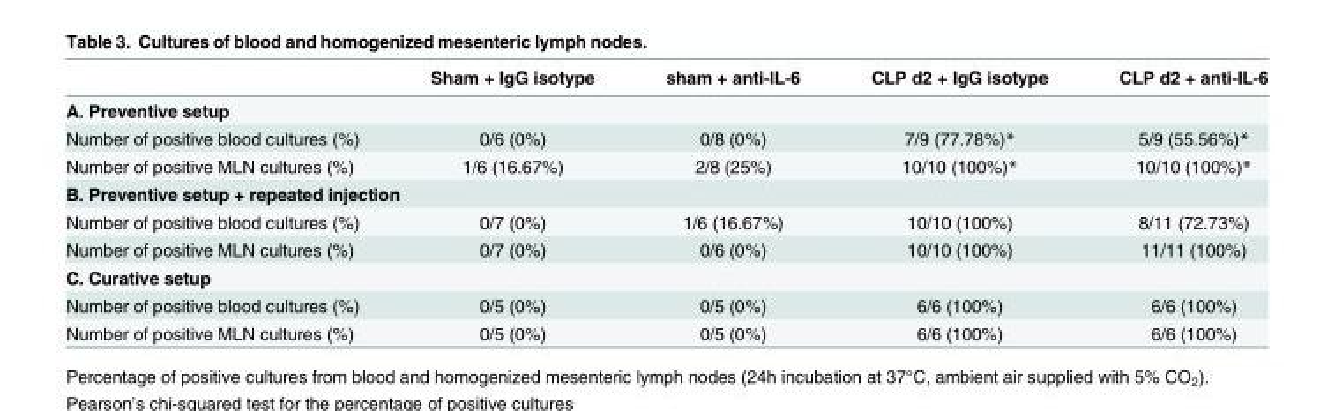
<table><thead><tr><td></td><td>Sham + IgG isotype</td><td>sham + anti-IL-6</td><td>CLP d2 + IgG isotype</td><td>CLP d2 + anti-IL-6</td></tr></thead><tbody><tr><td colspan="5">A. Preventive setup</td></tr><tr><td>Number of positive blood cultures (%)</td><td>0/6 (0%)</td><td>0/8 (0%)</td><td>7/9 (77.78%)*</td><td>5/9 (55.56%)*</td></tr><tr><td>Number of positive MLN cultures (%)</td><td>1/6 (16.67%)</td><td>2/8 (25%)</td><td>10/10 (100%)*</td><td>10/10 (100%)*</td></tr><tr><td colspan="5">B. Preventive setup + repeated injection</td></tr><tr><td>Number of positive blood cultures (%)</td><td>0/7 (0%)</td><td>1/6 (16.67%)</td><td>10/10 (100%)</td><td>8/11 (72.73%)</td></tr><tr><td>Number of positive MLN cultures (%)</td><td>0/7 (0%)</td><td>0/6 (0%)</td><td>10/10 (100%)</td><td>11/11 (100%)</td></tr><tr><td colspan="5">C. Curative setup</td></tr><tr><td>Number of positive blood cultures (%)</td><td>0/5 (0%)</td><td>0/5 (0%)</td><td>6/6 (100%)</td><td>6/6 (100%)</td></tr><tr><td>Number of positive MLN cultures (%)</td><td>0/5 (0%)</td><td>0/5 (0%)</td><td>6/6 (100%)</td><td>6/6 (100%)</td></tr></tbody></table>